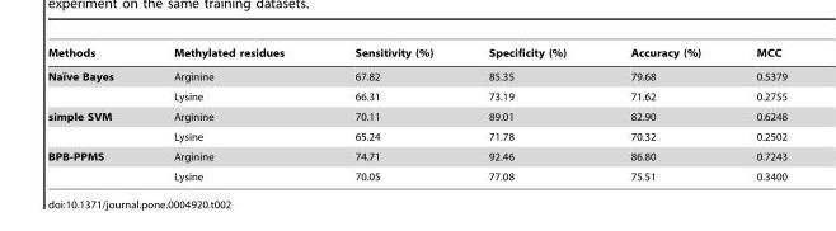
<table><thead><tr><td>Methods</td><td>Methylated residues</td><td>Sensitivity (%)</td><td>Specificity (%)</td><td>Accuracy (%)</td><td>MCC</td></tr></thead><tbody><tr><td rowspan="2">Naı¨ve Bayes</td><td>Arginine</td><td>67.82</td><td>85.35</td><td>79.68</td><td>0.5379</td></tr><tr><td>Lysine</td><td>66.31</td><td>73.19</td><td>71.62</td><td>0.2755</td></tr><tr><td rowspan="2">simple SVM</td><td>Arginine</td><td>70.11</td><td>89.01</td><td>82.90</td><td>0.6248</td></tr><tr><td>Lysine</td><td>65.24</td><td>71.78</td><td>70.32</td><td>0.2502</td></tr><tr><td rowspan="2">BPB-PPMS</td><td>Arginine</td><td>74.71</td><td>92.46</td><td>86.80</td><td>0.7243</td></tr><tr><td>Lysine</td><td>70.05</td><td>77.08</td><td>75.51</td><td>0.3400</td></tr></tbody></table>